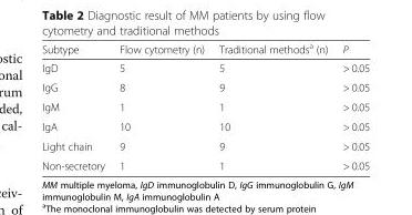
<table><thead><tr><td>Subtype</td><td>Flow cytometry (n)</td><td>Traditional methods<sup>a</sup> (n)</td><td>P</td></tr></thead><tbody><tr><td>IgD</td><td>5</td><td>5</td><td>&gt; 0.05</td></tr><tr><td>IgG</td><td>8</td><td>9</td><td>&gt; 0.05</td></tr><tr><td>IgM</td><td>1</td><td>1</td><td>&gt; 0.05</td></tr><tr><td>IgA</td><td>10</td><td>10</td><td>&gt; 0.05</td></tr><tr><td>Light chain</td><td>9</td><td>9</td><td>&gt; 0.05</td></tr><tr><td>Non-secretory</td><td>1</td><td>1</td><td>&gt; 0.05</td></tr></tbody></table>